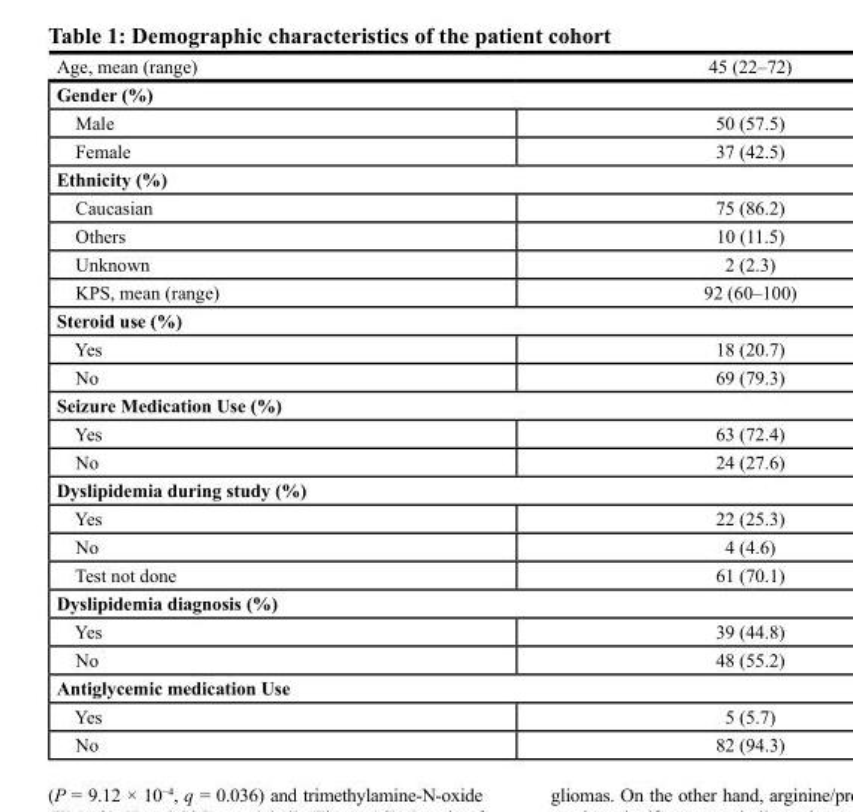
<table><tbody><tr><td>Age, mean (range)</td><td>45 (22–72)</td></tr><tr><td colspan="2">Gender (%)</td></tr><tr><td>Male</td><td>50 (57.5)</td></tr><tr><td>Female</td><td>37 (42.5)</td></tr><tr><td colspan="2">Ethnicity (%)</td></tr><tr><td>Caucasian</td><td>75 (86.2)</td></tr><tr><td>Others</td><td>10 (11.5)</td></tr><tr><td>Unknown</td><td>2 (2.3)</td></tr><tr><td>KPS, mean (range)</td><td>92 (60–100)</td></tr><tr><td colspan="2">Steroid use (%)</td></tr><tr><td>Yes</td><td>18 (20.7)</td></tr><tr><td>No</td><td>69 (79.3)</td></tr><tr><td colspan="2">Seizure Medication Use (%)</td></tr><tr><td>Yes</td><td>63 (72.4)</td></tr><tr><td>No</td><td>24 (27.6)</td></tr><tr><td colspan="2">Dyslipidemia during study (%)</td></tr><tr><td>Yes</td><td>22 (25.3)</td></tr><tr><td>No</td><td>4 (4.6)</td></tr><tr><td>Test not done</td><td>61 (70.1)</td></tr><tr><td colspan="2">Dyslipidemia diagnosis (%)</td></tr><tr><td>Yes</td><td>39 (44.8)</td></tr><tr><td>No</td><td>48 (55.2)</td></tr><tr><td colspan="2">Antiglycemic medication Use</td></tr><tr><td>Yes</td><td>5 (5.7)</td></tr><tr><td>No</td><td>82 (94.3)</td></tr></tbody></table>